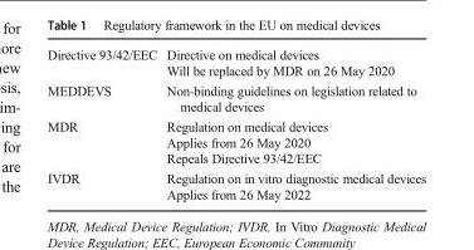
<table><tbody><tr><td>Directive 93/42/EEC</td><td>Directive on medical devices Will be replaced by MDR on 26 May 2020</td></tr><tr><td>MEDDEVS</td><td>Non-binding guidelines on legislation related to medical devices</td></tr><tr><td>MDR</td><td>Regulation on medical devices Applies from 26 May 2020 Repeals Directive 93/42/EEC</td></tr><tr><td>IVDR</td><td>Regulation on in vitro diagnostic medical devices Applies from 26 May 2022</td></tr></tbody></table>